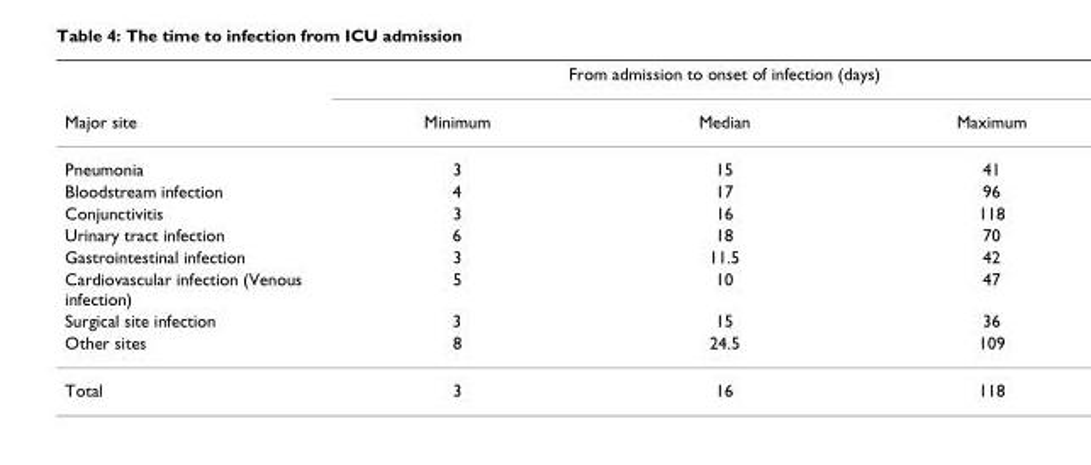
<table><thead><tr><td rowspan="2">Major site</td><td colspan="3">From admission to onset of infection (days)</td></tr><tr><td>Minimum</td><td>Median</td><td>Maximum</td></tr></thead><tbody><tr><td>Pneumonia</td><td>3</td><td>15</td><td>41</td></tr><tr><td>Bloodstream infection</td><td>4</td><td>17</td><td>96</td></tr><tr><td>Conjunctivitis</td><td>3</td><td>16</td><td>118</td></tr><tr><td>Urinary tract infection</td><td>6</td><td>18</td><td>70</td></tr><tr><td>Gastrointestinal infection</td><td>3</td><td>11.5</td><td>42</td></tr><tr><td>Cardiovascular infection (Venous infection)</td><td>5</td><td>10</td><td>47</td></tr><tr><td>Surgical site infection</td><td>3</td><td>15</td><td>36</td></tr><tr><td>Other sites</td><td>8</td><td>24.5</td><td>109</td></tr><tr><td>Total</td><td>3</td><td>16</td><td>118</td></tr></tbody></table>